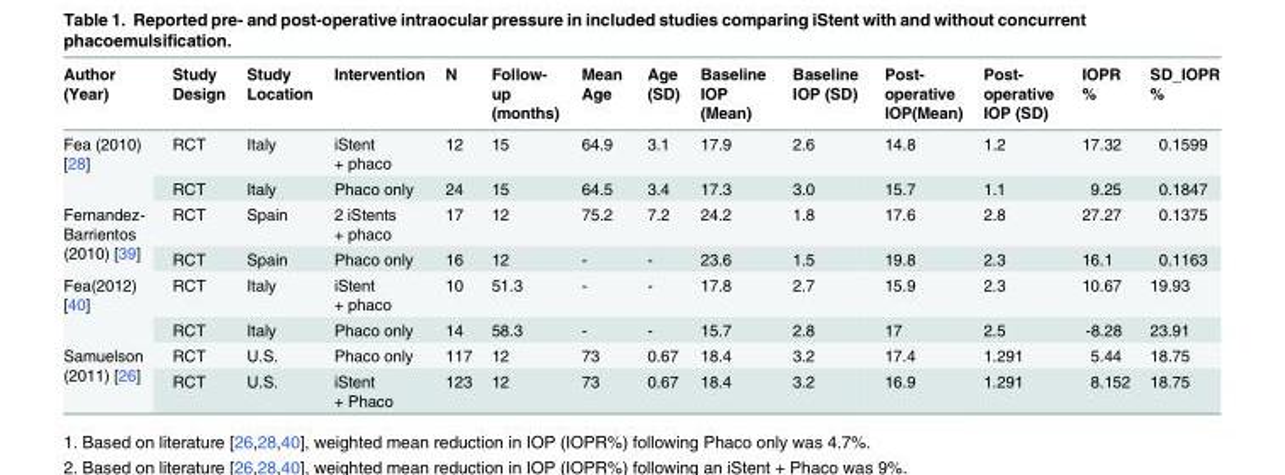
<table><thead><tr><td>Author (Year)</td><td>Study Design</td><td>Study Location</td><td>Intervention</td><td>N</td><td>Follow- up (months)</td><td>Mean Age</td><td>Age (SD)</td><td>Baseline IOP (Mean)</td><td>Baseline IOP (SD)</td><td>Post- operative IOP(Mean)</td><td>Post- operative IOP (SD)</td><td>IOPR %</td><td>SD_IOPR %</td></tr></thead><tbody><tr><td rowspan="2">Fea (2010) [28]</td><td>RCT</td><td>Italy</td><td>iStent + phaco</td><td>12</td><td>15</td><td>64.9</td><td>3.1</td><td>17.9</td><td>2.6</td><td>14.8</td><td>1.2</td><td>17.32</td><td>0.1599</td></tr><tr><td>RCT</td><td>Italy</td><td>Phaco only</td><td>24</td><td>15</td><td>64.5</td><td>3.4</td><td>17.3</td><td>3.0</td><td>15.7</td><td>1.1</td><td>9.25</td><td>0.1847</td></tr><tr><td rowspan="2">Fernandez- Barrientos (2010) [39]</td><td>RCT</td><td>Spain</td><td>2 iStents + phaco</td><td>17</td><td>12</td><td>75.2</td><td>7.2</td><td>24.2</td><td>1.8</td><td>17.6</td><td>2.8</td><td>27.27</td><td>0.1375</td></tr><tr><td>RCT</td><td>Spain</td><td>Phaco only</td><td>16</td><td>12</td><td>-</td><td>-</td><td>23.6</td><td>1.5</td><td>19.8</td><td>2.3</td><td>16.1</td><td>0.1163</td></tr><tr><td rowspan="2">Fea(2012) [40]</td><td>RCT</td><td>Italy</td><td>iStent + phaco</td><td>10</td><td>51.3</td><td>-</td><td>-</td><td>17.8</td><td>2.7</td><td>15.9</td><td>2.3</td><td>10.67</td><td>19.93</td></tr><tr><td>RCT</td><td>Italy</td><td>Phaco only</td><td>14</td><td>58.3</td><td>-</td><td>-</td><td>15.7</td><td>2.8</td><td>17</td><td>2.5</td><td>-8.28</td><td>23.91</td></tr><tr><td rowspan="2">Samuelson (2011) [26]</td><td>RCT</td><td>U.S.</td><td>Phaco only</td><td>117</td><td>12</td><td>73</td><td>0.67</td><td>18.4</td><td>3.2</td><td>17.4</td><td>1.291</td><td>5.44</td><td>18.75</td></tr><tr><td>RCT</td><td>U.S.</td><td>iStent + Phaco</td><td>123</td><td>12</td><td>73</td><td>0.67</td><td>18.4</td><td>3.2</td><td>16.9</td><td>1.291</td><td>8.152</td><td>18.75</td></tr></tbody></table>